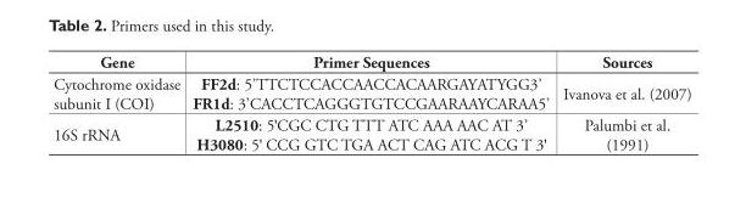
<table><thead><tr><td>Gene</td><td>Primer Sequences</td><td>Sources</td></tr></thead><tbody><tr><td>Cytochrome oxidase subunit I (COI)</td><td>FF2d: 5’TTCTCCACCAACCACAARGAYATYGG3’ FR1d: 3’CACCTCAGGGTGTCCGAARAAYCARAA5’</td><td>Ivanova et al. (2007)</td></tr><tr><td>16S rRNA</td><td>L2510: 5′CGC CTG TTT ATC AAA AAC AT 3’ H3080: 5′ CCG GTC TGA ACT CAG ATC ACG T 3′</td><td>Palumbi et al. (1991)</td></tr></tbody></table>